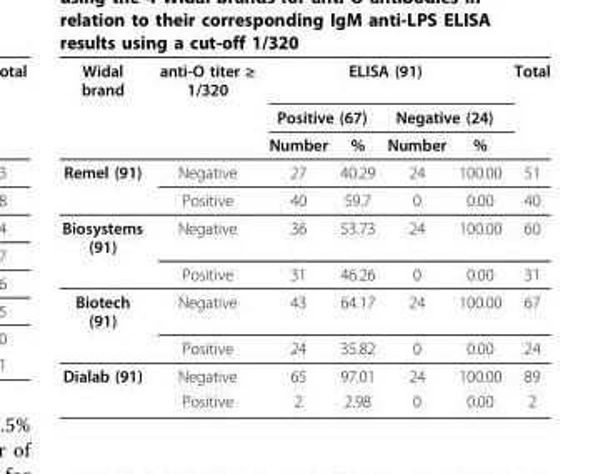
<table><thead><tr><td rowspan="3">Widal brand</td><td rowspan="3">anti-O titer ≥ 1/320</td><td colspan="4">ELISA (91)</td><td rowspan="3">Total</td></tr><tr><td colspan="2">Positive (67)</td><td colspan="2">Negative (24)</td></tr><tr><td>Number</td><td>%</td><td>Number</td><td>%</td></tr></thead><tbody><tr><td rowspan="2">Remel (91)</td><td>Negative</td><td>27</td><td>40.29</td><td>24</td><td>100.00</td><td>51</td></tr><tr><td>Positive</td><td>40</td><td>59.7</td><td>0</td><td>0.00</td><td>40</td></tr><tr><td rowspan="2">Biosystems (91)</td><td>Negative</td><td>36</td><td>53.73</td><td>24</td><td>100.00</td><td>60</td></tr><tr><td>Positive</td><td>31</td><td>46.26</td><td>0</td><td>0.00</td><td>31</td></tr><tr><td rowspan="2">Biotech (91)</td><td>Negative</td><td>43</td><td>64.17</td><td>24</td><td>100.00</td><td>67</td></tr><tr><td>Positive</td><td>24</td><td>35.82</td><td>0</td><td>0.00</td><td>24</td></tr><tr><td rowspan="2">Dialab (91)</td><td>Negative</td><td>65</td><td>97.01</td><td>24</td><td>100.00</td><td>89</td></tr><tr><td>Positive</td><td>2</td><td>2.98</td><td>0</td><td>0.00</td><td>2</td></tr></tbody></table>